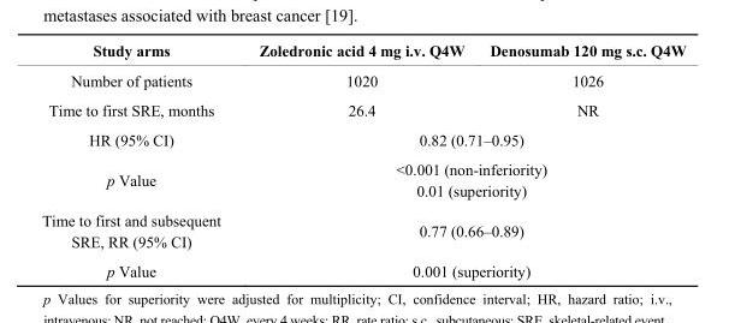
<table><thead><tr><td>Study arms</td><td>Zoledronic acid 4 mg i.v. Q4W</td><td>Denosumab 120 mg s.c. Q4W</td></tr></thead><tbody><tr><td>Number of patients</td><td>1020</td><td>1026</td></tr><tr><td>Time to first SRE, months</td><td>26.4</td><td>NR</td></tr><tr><td>HR (95% CI)</td><td colspan="2">0.82 (0.71–0.95)</td></tr><tr><td>p Value</td><td colspan="2">&lt;0.001 (non-inferiority) 0.01 (superiority)</td></tr><tr><td>Time to first and subsequent SRE, RR (95% CI)</td><td colspan="2">0.77 (0.66–0.89)</td></tr><tr><td>p Value</td><td colspan="2">0.001 (superiority)</td></tr></tbody></table>